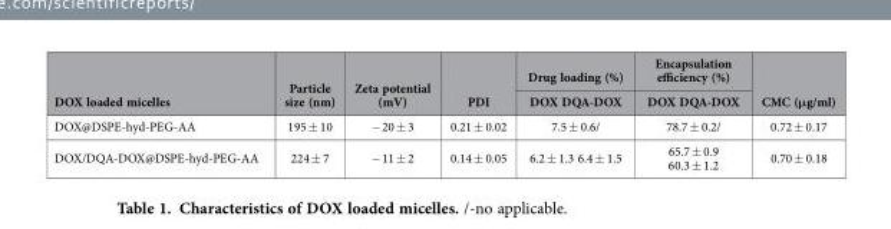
<table><thead><tr><td rowspan="2">DOX loaded micelles</td><td rowspan="2">Particle size (nm)</td><td rowspan="2">Zeta potential (mV)</td><td rowspan="2">PDI</td><td rowspan="2">Drug loading (%) DOX DQA-DOX</td><td rowspan="2">Encapsulation efficiency (%) DOX DQA-DOX</td><td rowspan="2">CMC (μg/ml)</td></tr><tr></tr></thead><tbody><tr><td>DOX@DSPE-hyd-PEG-AA</td><td>195 ± 10</td><td>− 20 ± 3</td><td>0.21 ± 0.02</td><td>7.5 ± 0.6/</td><td>78.7 ± 0.2/</td><td>0.72 ± 0.17</td></tr><tr><td>DOX/DQA-DOX@DSPE-hyd-PEG-AA</td><td>224 ± 7</td><td>− 11 ± 2</td><td>0.14 ± 0.05</td><td>6.2 ± 1.3 6.4 ± 1.5</td><td>65.7 ± 0.9 60.3 ± 1.2</td><td>0.70 ± 0.18</td></tr></tbody></table>